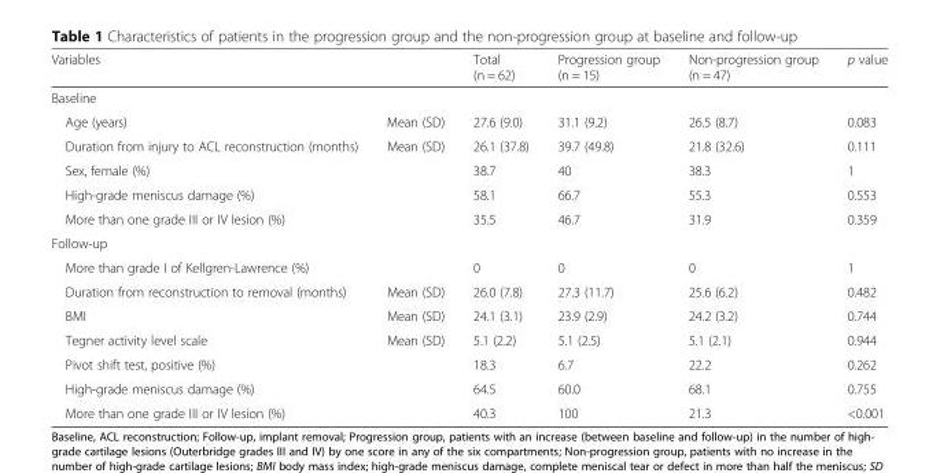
<table><thead><tr><td>Variables</td><td></td><td>Total (n = 62)</td><td>Progression group (n = 15)</td><td>Non-progression group (n = 47)</td><td>p value</td></tr></thead><tbody><tr><td colspan="6">Baseline</td></tr><tr><td>Age (years)</td><td>Mean (SD)</td><td>27.6 (9.0)</td><td>31.1 (9.2)</td><td>26.5 (8.7)</td><td>0.083</td></tr><tr><td>Duration from injury to ACL reconstruction (months)</td><td>Mean (SD)</td><td>26.1 (37.8)</td><td>39.7 (49.8)</td><td>21.8 (32.6)</td><td>0.111</td></tr><tr><td>Sex, female (%)</td><td></td><td>38.7</td><td>40</td><td>38.3</td><td>1</td></tr><tr><td>High-grade meniscus damage (%)</td><td></td><td>58.1</td><td>66.7</td><td>55.3</td><td>0.553</td></tr><tr><td>More than one grade III or IV lesion (%)</td><td></td><td>35.5</td><td>46.7</td><td>31.9</td><td>0.359</td></tr><tr><td colspan="6">Follow-up</td></tr><tr><td>More than grade I of Kellgren-Lawrence (%)</td><td></td><td>0</td><td>0</td><td>0</td><td>1</td></tr><tr><td>Duration from reconstruction to removal (months)</td><td>Mean (SD)</td><td>26.0 (7.8)</td><td>27.3 (11.7)</td><td>25.6 (6.2)</td><td>0.482</td></tr><tr><td>BMI</td><td>Mean (SD)</td><td>24.1 (3.1)</td><td>23.9 (2.9)</td><td>24.2 (3.2)</td><td>0.744</td></tr><tr><td>Tegner activity level scale</td><td>Mean (SD)</td><td>5.1 (2.2)</td><td>5.1 (2.5)</td><td>5.1 (2.1)</td><td>0.944</td></tr><tr><td>Pivot shift test, positive (%)</td><td></td><td>18.3</td><td>6.7</td><td>22.2</td><td>0.262</td></tr><tr><td>High-grade meniscus damage (%)</td><td></td><td>64.5</td><td>60.0</td><td>68.1</td><td>0.755</td></tr><tr><td>More than one grade III or IV lesion (%)</td><td></td><td>40.3</td><td>100</td><td>21.3</td><td>&lt;0.001</td></tr></tbody></table>